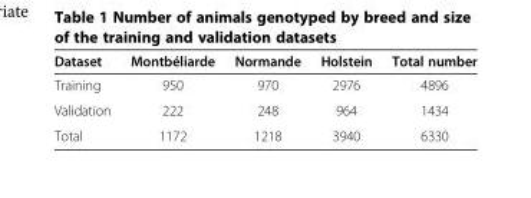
<table><thead><tr><td>Dataset</td><td>Montbéliarde</td><td>Normande</td><td>Holstein</td><td>Total number</td></tr></thead><tbody><tr><td>Training</td><td>950</td><td>970</td><td>2976</td><td>4896</td></tr><tr><td>Validation</td><td>222</td><td>248</td><td>964</td><td>1434</td></tr><tr><td>Total</td><td>1172</td><td>1218</td><td>3940</td><td>6330</td></tr></tbody></table>